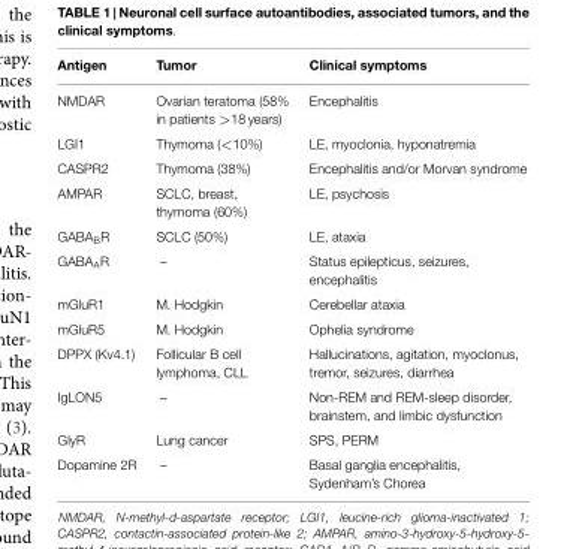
<table><thead><tr><td>Antigen</td><td>Tumor</td><td>Clinical symptoms</td></tr></thead><tbody><tr><td>NMDAR</td><td>Ovarian teratoma (58% in patients &gt;18 years)</td><td>Encephalitis</td></tr><tr><td>LGI1</td><td>Thymoma (&lt;10%)</td><td>LE, myoclonia, hyponatremia</td></tr><tr><td>CASPR2</td><td>Thymoma (38%)</td><td>Encephalitis and/or Morvan syndrome</td></tr><tr><td>AMPAR</td><td>SCLC, breast, thymoma (60%)</td><td>LE, psychosis</td></tr><tr><td>GABA<sub>B</sub>R</td><td>SCLC (50%)</td><td>LE, ataxia</td></tr><tr><td>GABA<sub>A</sub>R</td><td>–</td><td>Status epilepticus, seizures, encephalitis</td></tr><tr><td>mGluR1</td><td>M. Hodgkin</td><td>Cerebellar ataxia</td></tr><tr><td>mGluR5</td><td>M. Hodgkin</td><td>Ophelia syndrome</td></tr><tr><td>DPPX (Kv4.1)</td><td>Follicular B cell lymphoma, CLL</td><td>Hallucinations, agitation, myoclonus, tremor, seizures, diarrhea</td></tr><tr><td>IgLON5</td><td>–</td><td>Non-REM and REM-sleep disorder, brainstem, and limbic dysfunction</td></tr><tr><td>GlyR</td><td>Lung cancer</td><td>SPS, PERM</td></tr><tr><td>Dopamine 2R</td><td>–</td><td>Basal ganglia encephalitis, Sydenham’s Chorea</td></tr></tbody></table>